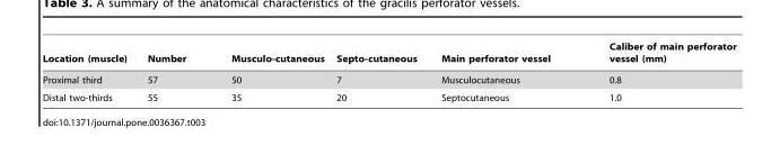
<table><thead><tr><td>Location (muscle)</td><td>Number</td><td>Musculo-cutaneous</td><td>Septo-cutaneous</td><td>Main perforator vessel</td><td>Caliber of main perforator vessel (mm)</td></tr></thead><tbody><tr><td>Proximal third</td><td>57</td><td>50</td><td>7</td><td>Musculocutaneous</td><td>0.8</td></tr><tr><td>Distal two-thirds</td><td>55</td><td>35</td><td>20</td><td>Septocutaneous</td><td>1.0</td></tr></tbody></table>